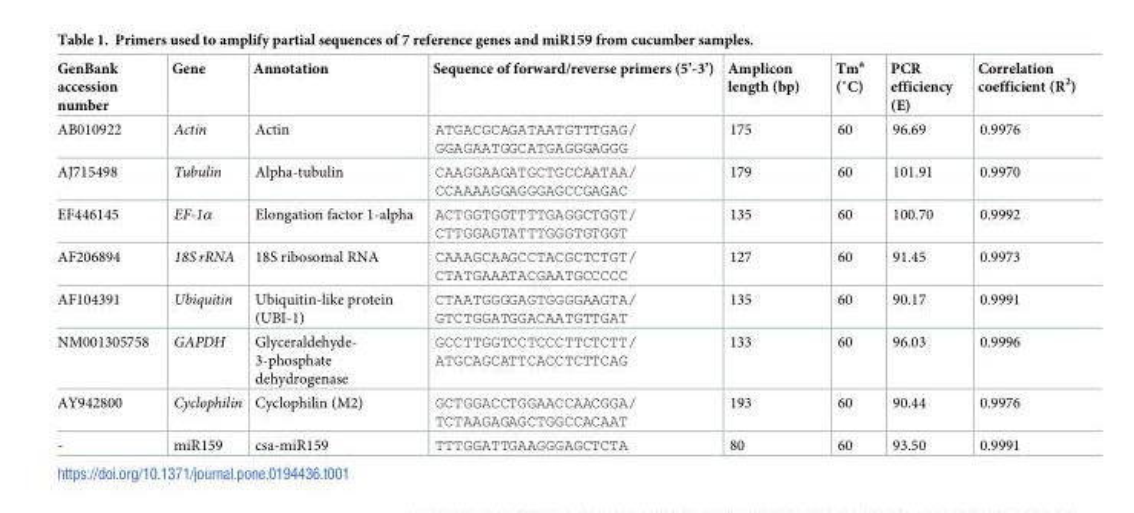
<table><thead><tr><td>GenBank accession number</td><td>Gene</td><td>Annotation</td><td>Sequence of forward/reverse primers (5’-3’)</td><td>Amplicon length (bp)</td><td>Tma (˚C)</td><td>PCR efficiency (E)</td><td>Correlation coefficient (R<sup>2</sup>)</td></tr></thead><tbody><tr><td>AB010922</td><td>Actin</td><td>Actin</td><td>ATGACGCAGATAATGTTTGAG/ GGAGAATGGCATGAGGGAGGG</td><td>175</td><td>60</td><td>96.69</td><td>0.9976</td></tr><tr><td>AJ715498</td><td>Tubulin</td><td>Alpha-tubulin</td><td>CAAGGAAGATGCTGCCAATAA/ CCAAAAGGAGGGAGCCGAGAC</td><td>179</td><td>60</td><td>101.91</td><td>0.9970</td></tr><tr><td>EF446145</td><td>EF-1α</td><td>Elongation factor 1-alpha</td><td>ACTGGTGGTTTTGAGGCTGGT/ CTTGGAGTATTTGGGTGTGGT</td><td>135</td><td>60</td><td>100.70</td><td>0.9992</td></tr><tr><td>AF206894</td><td>18S rRNA</td><td>18S ribosomal RNA</td><td>CAAAGCAAGCCTACGCTCTGT/ CTATGAAATACGAATGCCCCC</td><td>127</td><td>60</td><td>91.45</td><td>0.9973</td></tr><tr><td>AF104391</td><td>Ubiquitin</td><td>Ubiquitin-like protein (UBI-1)</td><td>CTAATGGGGAGTGGGGAAGTA/ GTCTGGATGGACAATGTTGAT</td><td>135</td><td>60</td><td>90.17</td><td>0.9991</td></tr><tr><td>NM001305758</td><td>GAPDH</td><td>Glyceraldehyde- 3-phosphate dehydrogenase</td><td>GCCTTGGTCCTCCCTTCTCTT/ ATGCAGCATTCACCTCTTCAG</td><td>133</td><td>60</td><td>96.03</td><td>0.9996</td></tr><tr><td>AY942800</td><td>Cyclophilin</td><td>Cyclophilin (M2)</td><td>GCTGGACCTGGAACCAACGGA/ TCTAAGAGAGCTGGCCACAAT</td><td>193</td><td>60</td><td>90.44</td><td>0.9976</td></tr><tr><td>-</td><td>miR159</td><td>csa-miR159</td><td>TTTGGATTGAAGGGAGCTCTA</td><td>80</td><td>60</td><td>93.50</td><td>0.9991</td></tr></tbody></table>